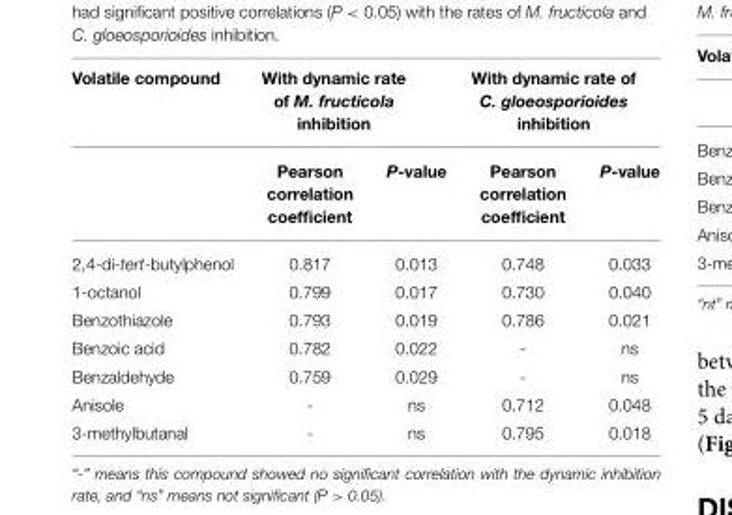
<table><thead><tr><td rowspan="2">Volatile compound</td><td colspan="2">With dynamic rate of M. fructicola inhibition</td><td colspan="2">With dynamic rate of C. gloeosporioides inhibition</td></tr><tr><td>Pearson correlation coefficient</td><td>P-value</td><td>Pearson correlation coefficient</td><td>P-value</td></tr></thead><tbody><tr><td>2,4-di-tert-butylphenol</td><td>0.817</td><td>0.013</td><td>0.748</td><td>0.033</td></tr><tr><td>1-octanol</td><td>0.799</td><td>0.017</td><td>0.730</td><td>0.040</td></tr><tr><td>Benzothiazole</td><td>0.793</td><td>0.019</td><td>0.786</td><td>0.021</td></tr><tr><td>Benzoic acid</td><td>0.782</td><td>0.022</td><td>-</td><td>ns</td></tr><tr><td>Benzaldehyde</td><td>0.759</td><td>0.029</td><td>-</td><td>ns</td></tr><tr><td>Anisole</td><td>-</td><td>ns</td><td>0.712</td><td>0.048</td></tr><tr><td>3-methylbutanal</td><td>-</td><td>ns</td><td>0.795</td><td>0.018</td></tr></tbody></table>